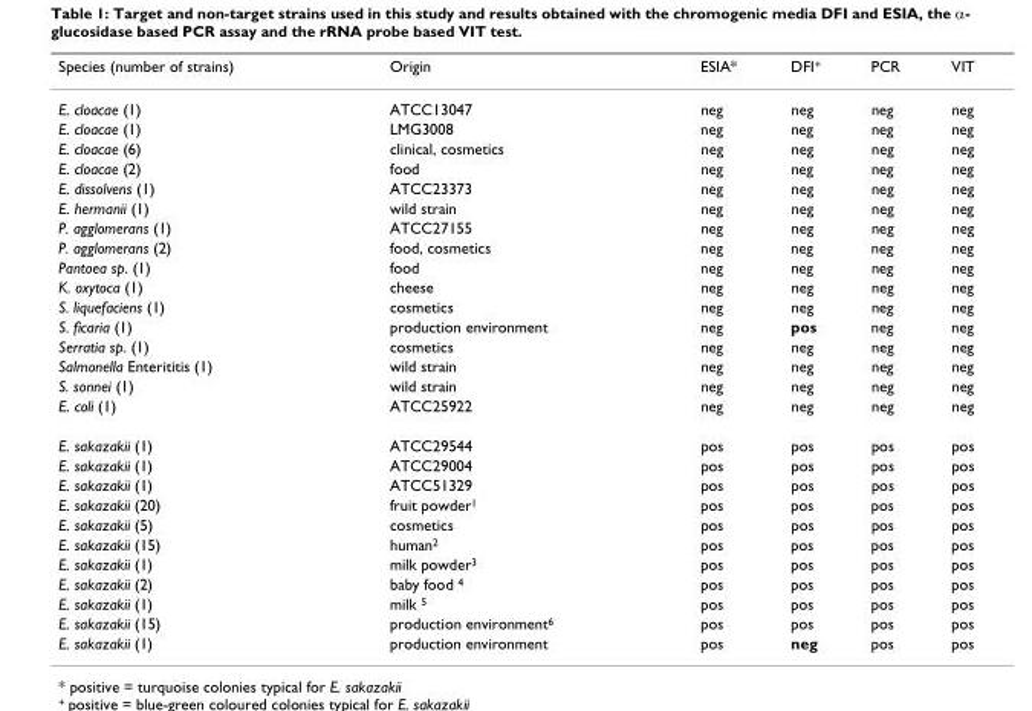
<table><thead><tr><td>Species (number of strains)</td><td>Origin</td><td>ESIA*</td><td>DFI+</td><td>PCR</td><td>VIT</td></tr></thead><tbody><tr><td>E. cloacae (1)</td><td>ATCC13047</td><td>neg</td><td>neg</td><td>neg</td><td>neg</td></tr><tr><td>E. cloacae (1)</td><td>LMG3008</td><td>neg</td><td>neg</td><td>neg</td><td>neg</td></tr><tr><td>E. cloacae (6)</td><td>clinical, cosmetics</td><td>neg</td><td>neg</td><td>neg</td><td>neg</td></tr><tr><td>E. cloacae (2)</td><td>food</td><td>neg</td><td>neg</td><td>neg</td><td>neg</td></tr><tr><td>E. dissolvens (1)</td><td>ATCC23373</td><td>neg</td><td>neg</td><td>neg</td><td>neg</td></tr><tr><td>E. hermanii (1)</td><td>wild strain</td><td>neg</td><td>neg</td><td>neg</td><td>neg</td></tr><tr><td>P. agglomerans (1)</td><td>ATCC27155</td><td>neg</td><td>neg</td><td>neg</td><td>neg</td></tr><tr><td>P. agglomerans (2)</td><td>food, cosmetics</td><td>neg</td><td>neg</td><td>neg</td><td>neg</td></tr><tr><td>Pantoea sp. (1)</td><td>food</td><td>neg</td><td>neg</td><td>neg</td><td>neg</td></tr><tr><td>K. oxytoca (1)</td><td>cheese</td><td>neg</td><td>neg</td><td>neg</td><td>neg</td></tr><tr><td>S. liquefaciens (1)</td><td>cosmetics</td><td>neg</td><td>neg</td><td>neg</td><td>neg</td></tr><tr><td>S. ficaria (1)</td><td>production environment</td><td>neg</td><td>pos</td><td>neg</td><td>neg</td></tr><tr><td>Serratia sp. (1)</td><td>cosmetics</td><td>neg</td><td>neg</td><td>neg</td><td>neg</td></tr><tr><td>Salmonella Enterititis (1)</td><td>wild strain</td><td>neg</td><td>neg</td><td>neg</td><td>neg</td></tr><tr><td>S. sonnei (1)</td><td>wild strain</td><td>neg</td><td>neg</td><td>neg</td><td>neg</td></tr><tr><td>E. coli (1)</td><td>ATCC25922</td><td>neg</td><td>neg</td><td>neg</td><td>neg</td></tr><tr><td>E. sakazakii (1)</td><td>ATCC29544</td><td>pos</td><td>pos</td><td>pos</td><td>pos</td></tr><tr><td>E. sakazakii (1)</td><td>ATCC29004</td><td>pos</td><td>pos</td><td>pos</td><td>pos</td></tr><tr><td>E. sakazakii (1)</td><td>ATCC51329</td><td>pos</td><td>pos</td><td>pos</td><td>pos</td></tr><tr><td>E. sakazakii (20)</td><td>fruit powder1</td><td>pos</td><td>pos</td><td>pos</td><td>pos</td></tr><tr><td>E. sakazakii (5)</td><td>cosmetics</td><td>pos</td><td>pos</td><td>pos</td><td>pos</td></tr><tr><td>E. sakazakii (15)</td><td>human2</td><td>pos</td><td>pos</td><td>pos</td><td>pos</td></tr><tr><td>E. sakazakii (1)</td><td>milk powder3</td><td>pos</td><td>pos</td><td>pos</td><td>pos</td></tr><tr><td>E. sakazakii (2)</td><td>baby food 4</td><td>pos</td><td>pos</td><td>pos</td><td>pos</td></tr><tr><td>E. sakazakii (1)</td><td>milk 5</td><td>pos</td><td>pos</td><td>pos</td><td>pos</td></tr><tr><td>E. sakazakii (15)</td><td>production environment6</td><td>pos</td><td>pos</td><td>pos</td><td>pos</td></tr><tr><td>E. sakazakii (1)</td><td>production environment</td><td>pos</td><td>neg</td><td>pos</td><td>pos</td></tr></tbody></table>